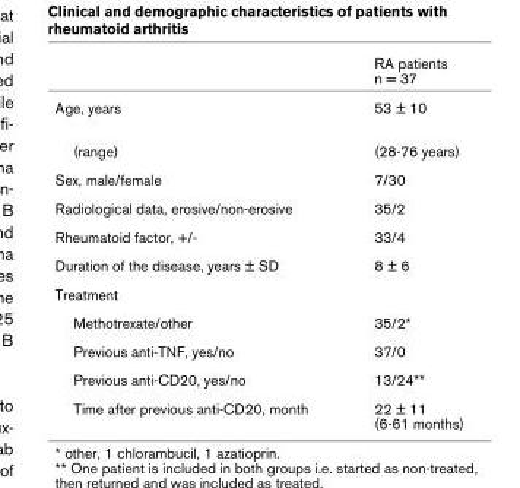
<table><thead><tr><td></td><td>RA patients n = 37</td></tr></thead><tbody><tr><td>Age, years</td><td>53 ± 10</td></tr><tr><td>(range)</td><td>(28-76 years)</td></tr><tr><td>Sex, male/female</td><td>7/30</td></tr><tr><td>Radiological data, erosive/non-erosive</td><td>35/2</td></tr><tr><td>Rheumatoid factor, +/-</td><td>33/4</td></tr><tr><td>Duration of the disease, years ± SD</td><td>8 ± 6</td></tr><tr><td colspan="2">Treatment</td></tr><tr><td>Methotrexate/other</td><td>35/2*</td></tr><tr><td>Previous anti-TNF, yes/no</td><td>37/0</td></tr><tr><td>Previous anti-CD20, yes/no</td><td>13/24**</td></tr><tr><td>Time after previous anti-CD20, month</td><td>22 ± 11 (6-61 months)</td></tr></tbody></table>